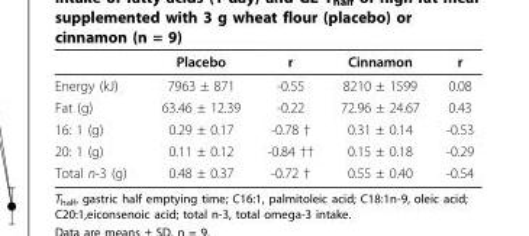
<table><thead><tr><td></td><td>Placebo</td><td>r</td><td>Cinnamon</td><td>r</td></tr></thead><tbody><tr><td>Energy (kJ)</td><td>7963 ± 871</td><td>-0.55</td><td>8210 ± 1599</td><td>0.08</td></tr><tr><td>Fat (g)</td><td>63.46 ± 12.39</td><td>-0.22</td><td>72.96 ± 24.67</td><td>0.43</td></tr><tr><td>16: 1 (g)</td><td>0.29 ± 0.17</td><td>-0.78 †</td><td>0.31 ± 0.14</td><td>-0.53</td></tr><tr><td>20: 1 (g)</td><td>0.11 ± 0.12</td><td>-0.84 ††</td><td>0.15 ± 0.18</td><td>-0.29</td></tr><tr><td>Total n-3 (g)</td><td>0.48 ± 0.37</td><td>-0.72 †</td><td>0.55 ± 0.40</td><td>-0.54</td></tr></tbody></table>